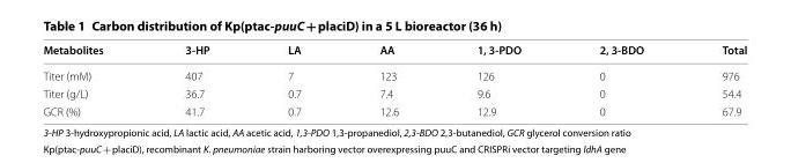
<table><thead><tr><td>Metabolites</td><td>3‑HP</td><td>LA</td><td>AA</td><td>1, 3‑PDO</td><td>2, 3‑BDO</td><td>Total</td></tr></thead><tbody><tr><td>Titer (mM)</td><td>407</td><td>7</td><td>123</td><td>126</td><td>0</td><td>976</td></tr><tr><td>Titer (g/L)</td><td>36.7</td><td>0.7</td><td>7.4</td><td>9.6</td><td>0</td><td>54.4</td></tr><tr><td>GCR (%)</td><td>41.7</td><td>0.7</td><td>12.6</td><td>12.9</td><td>0</td><td>67.9</td></tr></tbody></table>